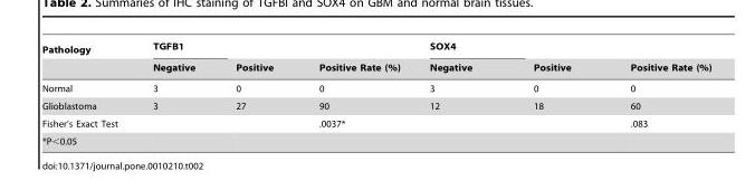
<table><thead><tr><td rowspan="2">Pathology</td><td rowspan="2">TGFB1 Negative</td><td rowspan="2">Positive</td><td rowspan="2">Positive Rate (%)</td><td rowspan="2">SOX4 Negative</td><td rowspan="2">Positive</td><td rowspan="2">Positive Rate (%)</td></tr><tr></tr></thead><tbody><tr><td>Normal</td><td>3</td><td>0</td><td>0</td><td>3</td><td>0</td><td>0</td></tr><tr><td>Glioblastoma</td><td>3</td><td>27</td><td>90</td><td>12</td><td>18</td><td>60</td></tr><tr><td>Fisher’s Exact Test</td><td></td><td></td><td>.0037*</td><td></td><td></td><td>.083</td></tr><tr><td>*P&lt;0.05</td><td></td><td></td><td></td><td></td><td></td><td></td></tr></tbody></table>